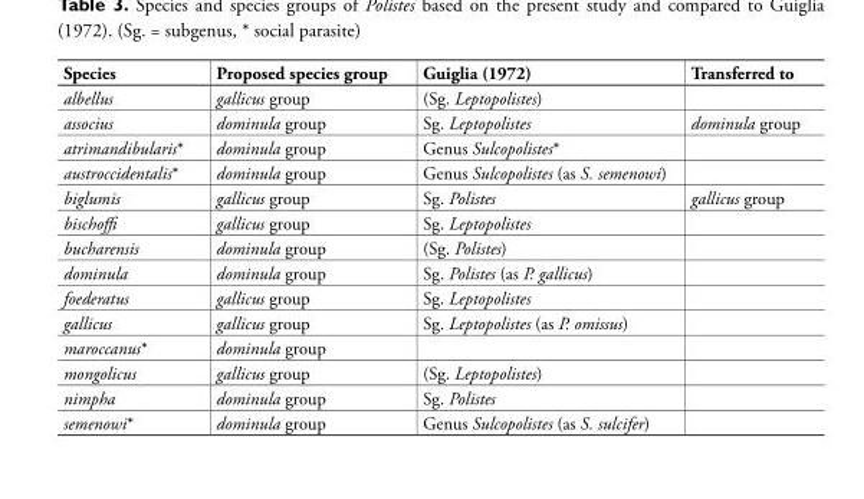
<table><thead><tr><td>Species</td><td>Proposed species group</td><td>Guiglia (1972)</td><td>Transferred to</td></tr></thead><tbody><tr><td>albellus</td><td>gallicus group</td><td>(Sg. Leptopolistes)</td><td></td></tr><tr><td>associus</td><td>dominula group</td><td>Sg. Leptopolistes</td><td>dominula group</td></tr><tr><td>atrimandibularis*</td><td>dominula group</td><td>Genus Sulcopolistes*</td><td></td></tr><tr><td>austroccidentalis*</td><td>dominula group</td><td>Genus Sulcopolistes (as S. semenowi)</td><td></td></tr><tr><td>biglumis</td><td>gallicus group</td><td>Sg. Polistes</td><td>gallicus group</td></tr><tr><td>bischoffi</td><td>gallicus group</td><td>Sg. Leptopolistes</td><td></td></tr><tr><td>bucharensis</td><td>dominula group</td><td>(Sg. Polistes)</td><td></td></tr><tr><td>dominula</td><td>dominula group</td><td>Sg. Polistes (as P. gallicus)</td><td></td></tr><tr><td>foederatus</td><td>gallicus group</td><td>Sg. Leptopolistes</td><td></td></tr><tr><td>gallicus</td><td>gallicus group</td><td>Sg. Leptopolistes (as P. omissus)</td><td></td></tr><tr><td>maroccanus*</td><td>dominula group</td><td></td><td></td></tr><tr><td>mongolicus</td><td>gallicus group</td><td>(Sg. Leptopolistes)</td><td></td></tr><tr><td>nimpha</td><td>dominula group</td><td>Sg. Polistes</td><td></td></tr><tr><td>semenowi*</td><td>dominula group</td><td>Genus Sulcopolistes (as S. sulcifer)</td><td></td></tr></tbody></table>